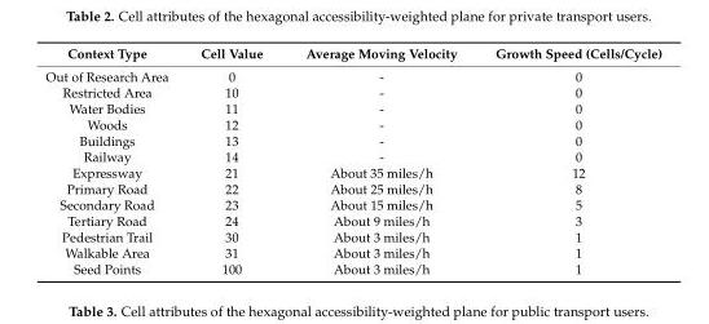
<table><thead><tr><td>Context Type</td><td>Cell Value</td><td>Average Moving Velocity</td><td>Growth Speed (Cells/Cycle)</td></tr></thead><tbody><tr><td>Out of Research Area</td><td>0</td><td>-</td><td>0</td></tr><tr><td>Restricted Area</td><td>10</td><td>-</td><td>0</td></tr><tr><td>Water Bodies</td><td>11</td><td>-</td><td>0</td></tr><tr><td>Woods</td><td>12</td><td>-</td><td>0</td></tr><tr><td>Buildings</td><td>13</td><td>-</td><td>0</td></tr><tr><td>Railway</td><td>14</td><td>-</td><td>0</td></tr><tr><td>Expressway</td><td>21</td><td>About 35 miles/h</td><td>12</td></tr><tr><td>Primary Road</td><td>22</td><td>About 25 miles/h</td><td>8</td></tr><tr><td>Secondary Road</td><td>23</td><td>About 15 miles/h</td><td>5</td></tr><tr><td>Tertiary Road</td><td>24</td><td>About 9 miles/h</td><td>3</td></tr><tr><td>Pedestrian Trail</td><td>30</td><td>About 3 miles/h</td><td>1</td></tr><tr><td>Walkable Area</td><td>31</td><td>About 3 miles/h</td><td>1</td></tr><tr><td>Seed Points</td><td>100</td><td>About 3 miles/h</td><td>1</td></tr></tbody></table>